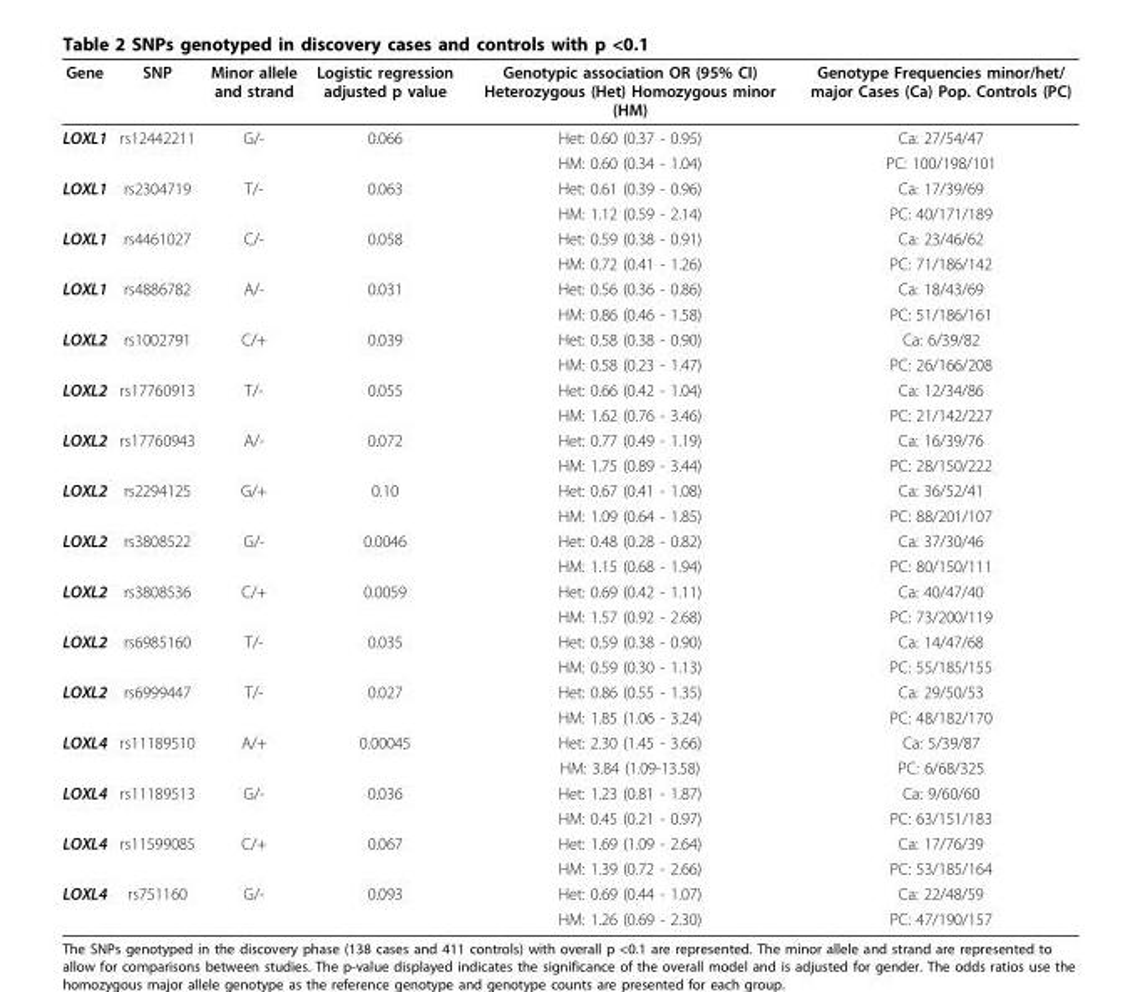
<table><thead><tr><td>Gene</td><td>SNP</td><td>Minor allele and strand</td><td>Logistic regression adjusted p value</td><td>Genotypic association OR (95% CI) Heterozygous (Het) Homozygous minor (HM)</td><td>Genotype Frequencies minor/het/ major Cases (Ca) Pop. Controls (PC)</td></tr></thead><tbody><tr><td rowspan="2">LOXL1</td><td>rs12442211</td><td>G/-</td><td>0.066</td><td>Het: 0.60 (0.37 - 0.95)</td><td>Ca: 27/54/47</td></tr><tr><td></td><td></td><td></td><td>HM: 0.60 (0.34 - 1.04)</td><td>PC: 100/198/101</td></tr><tr><td rowspan="2">LOXL1</td><td>rs2304719</td><td>T/-</td><td>0.063</td><td>Het: 0.61 (0.39 - 0.96)</td><td>Ca: 17/39/69</td></tr><tr><td></td><td></td><td></td><td>HM: 1.12 (0.59 - 2.14)</td><td>PC: 40/171/189</td></tr><tr><td rowspan="2">LOXL1</td><td>rs4461027</td><td>C/-</td><td>0.058</td><td>Het: 0.59 (0.38 - 0.91)</td><td>Ca: 23/46/62</td></tr><tr><td></td><td></td><td></td><td>HM: 0.72 (0.41 - 1.26)</td><td>PC: 71/186/142</td></tr><tr><td rowspan="2">LOXL1</td><td>rs4886782</td><td>A/-</td><td>0.031</td><td>Het: 0.56 (0.36 - 0.86)</td><td>Ca: 18/43/69</td></tr><tr><td></td><td></td><td></td><td>HM: 0.86 (0.46 - 1.58)</td><td>PC: 51/186/161</td></tr><tr><td rowspan="2">LOXL2</td><td>rs1002791</td><td>C/+</td><td>0.039</td><td>Het: 0.58 (0.38 - 0.90)</td><td>Ca: 6/39/82</td></tr><tr><td></td><td></td><td></td><td>HM: 0.58 (0.23 - 1.47)</td><td>PC: 26/166/208</td></tr><tr><td rowspan="2">LOXL2</td><td>rs17760913</td><td>T/-</td><td>0.055</td><td>Het: 0.66 (0.42 - 1.04)</td><td>Ca: 12/34/86</td></tr><tr><td></td><td></td><td></td><td>HM: 1.62 (0.76 - 3.46)</td><td>PC: 21/142/227</td></tr><tr><td rowspan="2">LOXL2</td><td>rs17760943</td><td>A/-</td><td>0.072</td><td>Het: 0.77 (0.49 - 1.19)</td><td>Ca: 16/39/76</td></tr><tr><td></td><td></td><td></td><td>HM: 1.75 (0.89 - 3.44)</td><td>PC: 28/150/222</td></tr><tr><td rowspan="2">LOXL2</td><td>rs2294125</td><td>G/+</td><td>0.10</td><td>Het: 0.67 (0.41 - 1.08)</td><td>Ca: 36/52/41</td></tr><tr><td></td><td></td><td></td><td>HM: 1.09 (0.64 - 1.85)</td><td>PC: 88/201/107</td></tr><tr><td rowspan="2">LOXL2</td><td>rs3808522</td><td>G/-</td><td>0.0046</td><td>Het: 0.48 (0.28 - 0.82)</td><td>Ca: 37/30/46</td></tr><tr><td></td><td></td><td></td><td>HM: 1.15 (0.68 - 1.94)</td><td>PC: 80/150/111</td></tr><tr><td rowspan="2">LOXL2</td><td>rs3808536</td><td>C/+</td><td>0.0059</td><td>Het: 0.69 (0.42 - 1.11)</td><td>Ca: 40/47/40</td></tr><tr><td></td><td></td><td></td><td>HM: 1.57 (0.92 - 2.68)</td><td>PC: 73/200/119</td></tr><tr><td rowspan="2">LOXL2</td><td>rs6985160</td><td>T/-</td><td>0.035</td><td>Het: 0.59 (0.38 - 0.90)</td><td>Ca: 14/47/68</td></tr><tr><td></td><td></td><td></td><td>HM: 0.59 (0.30 - 1.13)</td><td>PC: 55/185/155</td></tr><tr><td rowspan="2">LOXL2</td><td>rs6999447</td><td>T/-</td><td>0.027</td><td>Het: 0.86 (0.55 - 1.35)</td><td>Ca: 29/50/53</td></tr><tr><td></td><td></td><td></td><td>HM: 1.85 (1.06 - 3.24)</td><td>PC: 48/182/170</td></tr><tr><td rowspan="2">LOXL4</td><td>rs11189510</td><td>A/+</td><td>0.00045</td><td>Het: 2.30 (1.45 - 3.66)</td><td>Ca: 5/39/87</td></tr><tr><td></td><td></td><td></td><td>HM: 3.84 (1.09-13.58)</td><td>PC: 6/68/325</td></tr><tr><td rowspan="2">LOXL4</td><td>rs11189513</td><td>G/-</td><td>0.036</td><td>Het: 1.23 (0.81 - 1.87)</td><td>Ca: 9/60/60</td></tr><tr><td></td><td></td><td></td><td>HM: 0.45 (0.21 - 0.97)</td><td>PC: 63/151/183</td></tr><tr><td rowspan="2">LOXL4</td><td>rs11599085</td><td>C/+</td><td>0.067</td><td>Het: 1.69 (1.09 - 2.64)</td><td>Ca: 17/76/39</td></tr><tr><td></td><td></td><td></td><td>HM: 1.39 (0.72 - 2.66)</td><td>PC: 53/185/164</td></tr><tr><td rowspan="2">LOXL4</td><td>rs751160</td><td>G/-</td><td>0.093</td><td>Het: 0.69 (0.44 - 1.07)</td><td>Ca: 22/48/59</td></tr><tr><td></td><td></td><td></td><td>HM: 1.26 (0.69 - 2.30)</td><td>PC: 47/190/157</td></tr></tbody></table>